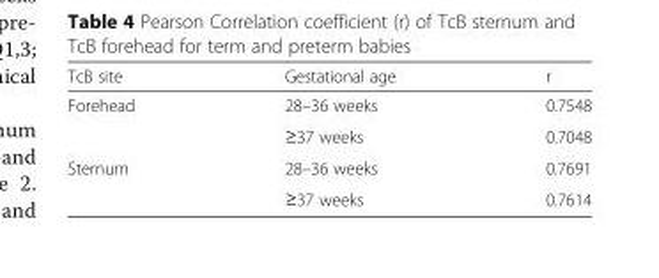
<table><thead><tr><td>TcB site</td><td>Gestational age</td><td>r</td></tr></thead><tbody><tr><td rowspan="2">Forehead</td><td>28–36 weeks</td><td>0.7548</td></tr><tr><td>≥37 weeks</td><td>0.7048</td></tr><tr><td rowspan="2">Sternum</td><td>28–36 weeks</td><td>0.7691</td></tr><tr><td>≥37 weeks</td><td>0.7614</td></tr></tbody></table>